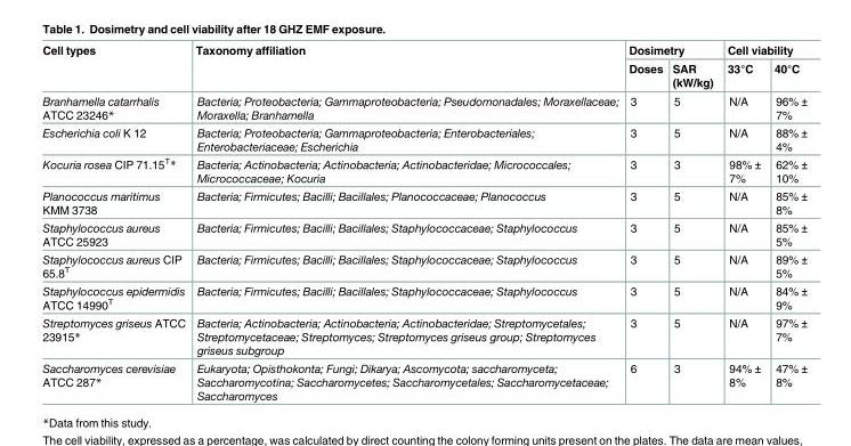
<table><thead><tr><td rowspan="2">Cell types</td><td rowspan="2">Taxonomy affiliation</td><td colspan="2">Dosimetry</td><td colspan="2">Cell viability</td></tr><tr><td>Doses</td><td>SAR (kW/kg)</td><td>33°C</td><td>40°C</td></tr></thead><tbody><tr><td>Branhamella catarrhalis ATCC 23246*</td><td>Bacteria; Proteobacteria; Gammaproteobacteria; Pseudomonadales; Moraxellaceae; Moraxella; Branhamella</td><td>3</td><td>5</td><td>N/A</td><td>96% ± 7%</td></tr><tr><td>Escherichia coli K 12</td><td>Bacteria; Proteobacteria; Gammaproteobacteria; Enterobacteriales; Enterobacteriaceae; Escherichia</td><td>3</td><td>5</td><td>N/A</td><td>88% ± 4%</td></tr><tr><td>Kocuria rosea CIP 71.15<sup>T</sup>*</td><td>Bacteria; Actinobacteria; Actinobacteria; Actinobacteridae; Micrococcales; Micrococcaceae; Kocuria</td><td>3</td><td>3</td><td>98% ± 7%</td><td>62% ± 10%</td></tr><tr><td>Planococcus maritimus KMM 3738</td><td>Bacteria; Firmicutes; Bacilli; Bacillales; Planococcaceae; Planococcus</td><td>3</td><td>5</td><td>N/A</td><td>85% ± 8%</td></tr><tr><td>Staphylococcus aureus ATCC 25923</td><td>Bacteria; Firmicutes; Bacilli; Bacillales; Staphylococcaceae; Staphylococcus</td><td>3</td><td>5</td><td>N/A</td><td>85% ± 5%</td></tr><tr><td>Staphylococcus aureus CIP 65.8<sup>T</sup></td><td>Bacteria; Firmicutes; Bacilli; Bacillales; Staphylococcaceae; Staphylococcus</td><td>3</td><td>5</td><td>N/A</td><td>89% ± 5%</td></tr><tr><td>Staphylococcus epidermidis ATCC 14990<sup>T</sup></td><td>Bacteria; Firmicutes; Bacilli; Bacillales; Staphylococcaceae; Staphylococcus</td><td>3</td><td>5</td><td>N/A</td><td>84% ± 9%</td></tr><tr><td>Streptomyces griseus ATCC 23915*</td><td>Bacteria; Actinobacteria; Actinobacteria; Actinobacteridae; Streptomycetales; Streptomycetaceae; Streptomyces; Streptomyces griseus group; Streptomyces griseus subgroup</td><td>3</td><td>5</td><td>N/A</td><td>97% ± 7%</td></tr><tr><td>Saccharomyces cerevisiae ATCC 287*</td><td>Eukaryota; Opisthokonta; Fungi; Dikarya; Ascomycota; saccharomyceta; Saccharomycotina; Saccharomycetes; Saccharomycetales; Saccharomycetaceae; Saccharomyces</td><td>6</td><td>3</td><td>94% ± 8%</td><td>47% ± 8%</td></tr></tbody></table>